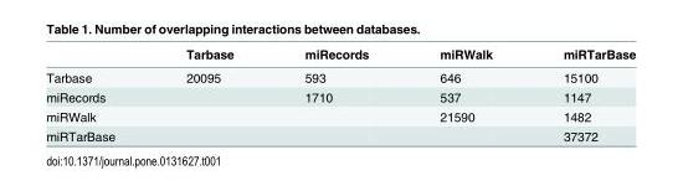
<table><thead><tr><td></td><td>Tarbase</td><td>miRecords</td><td>miRWalk</td><td>miRTarBase</td></tr></thead><tbody><tr><td>Tarbase</td><td>20095</td><td>593</td><td>646</td><td>15100</td></tr><tr><td>miRecords</td><td></td><td>1710</td><td>537</td><td>1147</td></tr><tr><td>miRWalk</td><td></td><td></td><td>21590</td><td>1482</td></tr><tr><td>miRTarBase</td><td></td><td></td><td></td><td>37372</td></tr></tbody></table>